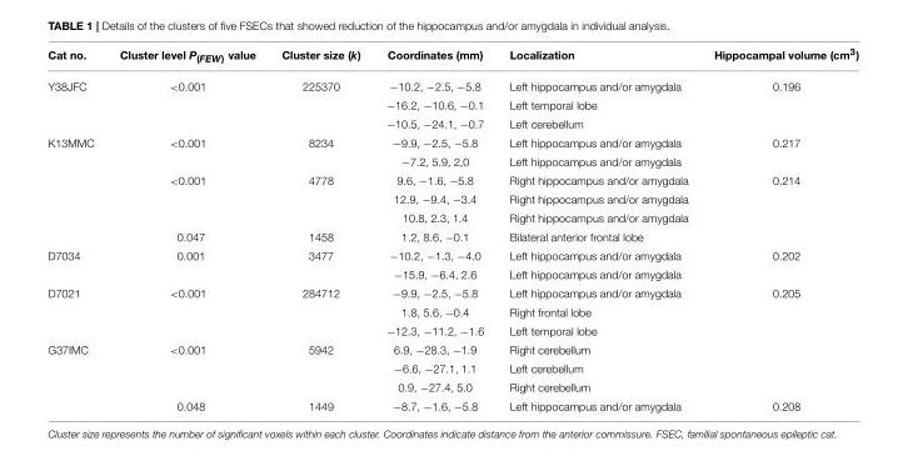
<table><thead><tr><td>Cat no.</td><td>Cluster level P(FEW) value</td><td>Cluster size (k)</td><td>Coordinates (mm)</td><td>Localization</td><td>Hippocampal volume (cm<sup>3</sup>)</td></tr></thead><tbody><tr><td rowspan="3">Y38JFC</td><td>&lt;0.001</td><td>225370</td><td>−10.2, −2.5, −5.8</td><td>Left hippocampus and/or amygdala</td><td>0.196</td></tr><tr><td></td><td></td><td>−16.2, −10.6, −0.1</td><td>Left temporal lobe</td><td></td></tr><tr><td></td><td></td><td>−10.5, −24.1, −0.7</td><td>Left cerebellum</td><td></td></tr><tr><td rowspan="6">K13MMC</td><td>&lt;0.001</td><td>8234</td><td>−9.9, −2.5, −5.8</td><td>Left hippocampus and/or amygdala</td><td>0.217</td></tr><tr><td></td><td></td><td>−7.2, 5.9, 2,0</td><td>Left hippocampus and/or amygdala</td><td></td></tr><tr><td>&lt;0.001</td><td>4778</td><td>9.6, −1.6, −5.8</td><td>Right hippocampus and/or amygdala</td><td>0.214</td></tr><tr><td></td><td></td><td>12.9, −9.4, −3.4</td><td>Right hippocampus and/or amygdala</td><td></td></tr><tr><td></td><td></td><td>10.8, 2.3, 1.4</td><td>Right hippocampus and/or amygdala</td><td></td></tr><tr><td>0.047</td><td>1458</td><td>1.2, 8.6, −0.1</td><td>Bilateral anterior frontal lobe</td><td></td></tr><tr><td rowspan="2">D7034</td><td>0.001</td><td>3477</td><td>−10.2, −1.3, −4.0</td><td>Left hippocampus and/or amygdala</td><td>0.202</td></tr><tr><td></td><td></td><td>−15.9, −6.4, 2.6</td><td>Left hippocampus and/or amygdala</td><td></td></tr><tr><td rowspan="3">D7021</td><td>&lt;0.001</td><td>284712</td><td>−9.9, −2.5, −5.8</td><td>Left hippocampus and/or amygdala</td><td>0.205</td></tr><tr><td></td><td></td><td>1.8, 5.6, −0.4</td><td>Right frontal lobe</td><td></td></tr><tr><td></td><td></td><td>−12.3, −11.2, −1.6</td><td>Left temporal lobe</td><td></td></tr><tr><td rowspan="4">G37IMC</td><td>&lt;0.001</td><td>5942</td><td>6.9, −28.3, −1.9</td><td>Right cerebellum</td><td></td></tr><tr><td></td><td></td><td>−6.6, −27.1, 1.1</td><td>Left cerebellum</td><td></td></tr><tr><td></td><td></td><td>0.9, −27.4, 5.0</td><td>Right cerebellum</td><td></td></tr><tr><td>0.048</td><td>1449</td><td>−8.7, −1.6, −5.8</td><td>Left hippocampus and/or amygdala</td><td>0.208</td></tr></tbody></table>